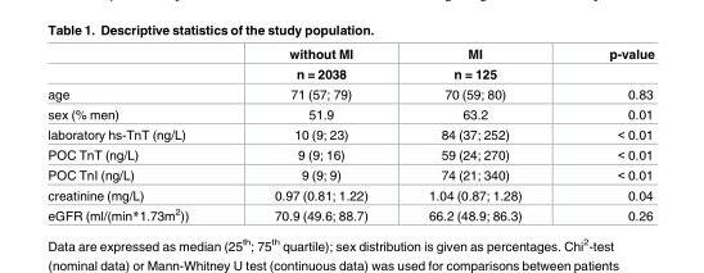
<table><thead><tr><td rowspan="2"></td><td rowspan="2">without MI n = 2038</td><td rowspan="2">MI n = 125</td><td rowspan="2">p-value</td></tr><tr></tr></thead><tbody><tr><td>age</td><td>71 (57; 79)</td><td>70 (59; 80)</td><td>0.83</td></tr><tr><td>sex (% men)</td><td>51.9</td><td>63.2</td><td>0.01</td></tr><tr><td>laboratory hs-TnT (ng/L)</td><td>10 (9; 23)</td><td>84 (37; 252)</td><td>&lt; 0.01</td></tr><tr><td>POC TnT (ng/L)</td><td>9 (9; 16)</td><td>59 (24; 270)</td><td>&lt; 0.01</td></tr><tr><td>POC TnI (ng/L)</td><td>9 (9; 9)</td><td>74 (21; 340)</td><td>&lt; 0.01</td></tr><tr><td>creatinine (mg/L)</td><td>0.97 (0.81; 1.22)</td><td>1.04 (0.87; 1.28)</td><td>0.04</td></tr><tr><td>eGFR (ml/(min*1.73m<sup>2</sup>))</td><td>70.9 (49.6; 88.7)</td><td>66.2 (48.9; 86.3)</td><td>0.26</td></tr></tbody></table>